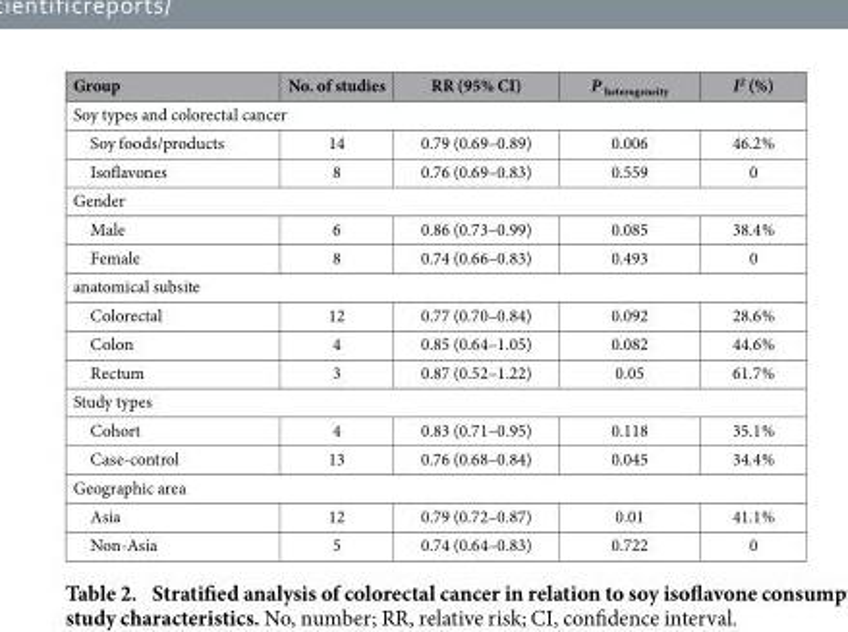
<table><thead><tr><td>Group</td><td>No. of studies</td><td>RR (95% CI)</td><td>P <sub>heterogeneity</sub></td><td>I<sup>2</sup> (%)</td></tr></thead><tbody><tr><td colspan="5">Soy types and colorectal cancer</td></tr><tr><td>Soy foods/products</td><td>14</td><td>0.79 (0.69–0.89)</td><td>0.006</td><td>46.2%</td></tr><tr><td>Isoflavones</td><td>8</td><td>0.76 (0.69–0.83)</td><td>0.559</td><td>0</td></tr><tr><td colspan="5">Gender</td></tr><tr><td>Male</td><td>6</td><td>0.86 (0.73–0.99)</td><td>0.085</td><td>38.4%</td></tr><tr><td>Female</td><td>8</td><td>0.74 (0.66–0.83)</td><td>0.493</td><td>0</td></tr><tr><td colspan="5">anatomical subsite</td></tr><tr><td>Colorectal</td><td>12</td><td>0.77 (0.70–0.84)</td><td>0.092</td><td>28.6%</td></tr><tr><td>Colon</td><td>4</td><td>0.85 (0.64–1.05)</td><td>0.082</td><td>44.6%</td></tr><tr><td>Rectum</td><td>3</td><td>0.87 (0.52–1.22)</td><td>0.05</td><td>61.7%</td></tr><tr><td colspan="5">Study types</td></tr><tr><td>Cohort</td><td>4</td><td>0.83 (0.71–0.95)</td><td>0.118</td><td>35.1%</td></tr><tr><td>Case-control</td><td>13</td><td>0.76 (0.68–0.84)</td><td>0.045</td><td>34.4%</td></tr><tr><td colspan="5">Geographic area</td></tr><tr><td>Asia</td><td>12</td><td>0.79 (0.72–0.87)</td><td>0.01</td><td>41.1%</td></tr><tr><td>Non-Asia</td><td>5</td><td>0.74 (0.64–0.83)</td><td>0.722</td><td>0</td></tr></tbody></table>